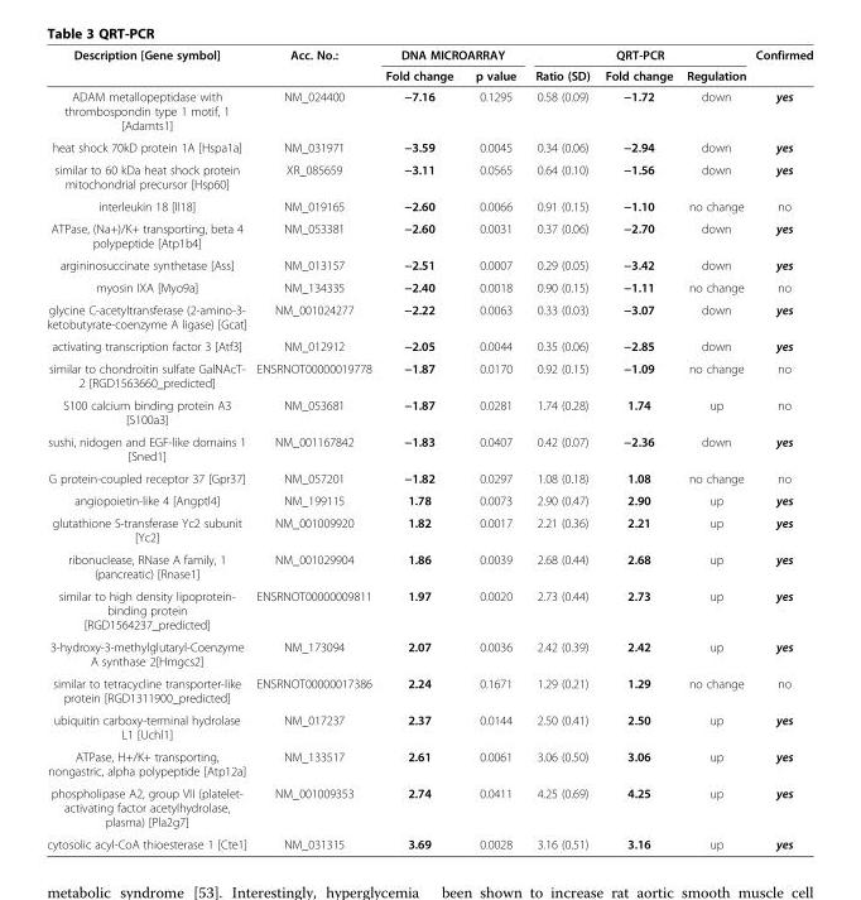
<table><thead><tr><td rowspan="2">Description [Gene symbol]</td><td rowspan="2">Acc. No.:</td><td colspan="2">DNA MICROARRAY</td><td colspan="3">QRT-PCR</td><td rowspan="2">Confirmed</td></tr><tr><td>Fold change</td><td>p value</td><td>Ratio (SD)</td><td>Fold change</td><td>Regulation</td></tr></thead><tbody><tr><td>ADAM metallopeptidase with thrombospondin type 1 motif, 1 [Adamts1]</td><td>NM_024400</td><td>−7.16</td><td>0.1295</td><td>0.58 (0.09)</td><td>−1.72</td><td>down</td><td>yes</td></tr><tr><td>heat shock 70kD protein 1A [Hspa1a]</td><td>NM_031971</td><td>−3.59</td><td>0.0045</td><td>0.34 (0.06)</td><td>−2.94</td><td>down</td><td>yes</td></tr><tr><td>similar to 60 kDa heat shock protein mitochondrial precursor [Hsp60]</td><td>XR_085659</td><td>−3.11</td><td>0.0565</td><td>0.64 (0.10)</td><td>−1.56</td><td>down</td><td>yes</td></tr><tr><td>interleukin 18 [Il18]</td><td>NM_019165</td><td>−2.60</td><td>0.0066</td><td>0.91 (0.15)</td><td>−1.10</td><td>no change</td><td>no</td></tr><tr><td>ATPase, (Na+)/K+ transporting, beta 4 polypeptide [Atp1b4]</td><td>NM_053381</td><td>−2.60</td><td>0.0031</td><td>0.37 (0.06)</td><td>−2.70</td><td>down</td><td>yes</td></tr><tr><td>argininosuccinate synthetase [Ass]</td><td>NM_013157</td><td>−2.51</td><td>0.0007</td><td>0.29 (0.05)</td><td>−3.42</td><td>down</td><td>yes</td></tr><tr><td>myosin IXA [Myo9a]</td><td>NM_134335</td><td>−2.40</td><td>0.0018</td><td>0.90 (0.15)</td><td>−1.11</td><td>no change</td><td>no</td></tr><tr><td>glycine C-acetyltransferase (2-amino-3- ketobutyrate-coenzyme A ligase) [Gcat]</td><td>NM_001024277</td><td>−2.22</td><td>0.0063</td><td>0.33 (0.03)</td><td>−3.07</td><td>down</td><td>yes</td></tr><tr><td>activating transcription factor 3 [Atf3]</td><td>NM_012912</td><td>−2.05</td><td>0.0044</td><td>0.35 (0.06)</td><td>−2.85</td><td>down</td><td>yes</td></tr><tr><td>similar to chondroitin sulfate GalNAcT- 2 [RGD1563660_predicted]</td><td>ENSRNOT00000019778</td><td>−1.87</td><td>0.0170</td><td>0.92 (0.15)</td><td>−1.09</td><td>no change</td><td>no</td></tr><tr><td>S100 calcium binding protein A3 [S100a3]</td><td>NM_053681</td><td>−1.87</td><td>0.0281</td><td>1.74 (0.28)</td><td>1.74</td><td>up</td><td>no</td></tr><tr><td>sushi, nidogen and EGF-like domains 1 [Sned1]</td><td>NM_001167842</td><td>−1.83</td><td>0.0407</td><td>0.42 (0.07)</td><td>−2.36</td><td>down</td><td>yes</td></tr><tr><td>G protein-coupled receptor 37 [Gpr37]</td><td>NM_057201</td><td>−1.82</td><td>0.0297</td><td>1.08 (0.18)</td><td>1.08</td><td>no change</td><td>no</td></tr><tr><td>angiopoietin-like 4 [Angptl4]</td><td>NM_199115</td><td>1.78</td><td>0.0073</td><td>2.90 (0.47)</td><td>2.90</td><td>up</td><td>yes</td></tr><tr><td>glutathione S-transferase Yc2 subunit [Yc2]</td><td>NM_001009920</td><td>1.82</td><td>0.0017</td><td>2.21 (0.36)</td><td>2.21</td><td>up</td><td>yes</td></tr><tr><td>ribonuclease, RNase A family, 1 (pancreatic) [Rnase1]</td><td>NM_001029904</td><td>1.86</td><td>0.0039</td><td>2.68 (0.44)</td><td>2.68</td><td>up</td><td>yes</td></tr><tr><td>similar to high density lipoprotein- binding protein [RGD1564237_predicted]</td><td>ENSRNOT00000009811</td><td>1.97</td><td>0.0020</td><td>2.73 (0.44)</td><td>2.73</td><td>up</td><td>yes</td></tr><tr><td>3-hydroxy-3-methylglutaryl-Coenzyme A synthase 2[Hmgcs2]</td><td>NM_173094</td><td>2.07</td><td>0.0036</td><td>2.42 (0.39)</td><td>2.42</td><td>up</td><td>yes</td></tr><tr><td>similar to tetracycline transporter-like protein [RGD1311900_predicted]</td><td>ENSRNOT00000017386</td><td>2.24</td><td>0.1671</td><td>1.29 (0.21)</td><td>1.29</td><td>no change</td><td>no</td></tr><tr><td>ubiquitin carboxy-terminal hydrolase L1 [Uchl1]</td><td>NM_017237</td><td>2.37</td><td>0.0144</td><td>2.50 (0.41)</td><td>2.50</td><td>up</td><td>yes</td></tr><tr><td>ATPase, H+/K+ transporting, nongastric, alpha polypeptide [Atp12a]</td><td>NM_133517</td><td>2.61</td><td>0.0061</td><td>3.06 (0.50)</td><td>3.06</td><td>up</td><td>yes</td></tr><tr><td>phospholipase A2, group VII (platelet- activating factor acetylhydrolase, plasma) [Pla2g7]</td><td>NM_001009353</td><td>2.74</td><td>0.0411</td><td>4.25 (0.69)</td><td>4.25</td><td>up</td><td>yes</td></tr><tr><td>cytosolic acyl-CoA thioesterase 1 [Cte1]</td><td>NM_031315</td><td>3.69</td><td>0.0028</td><td>3.16 (0.51)</td><td>3.16</td><td>up</td><td>yes</td></tr></tbody></table>